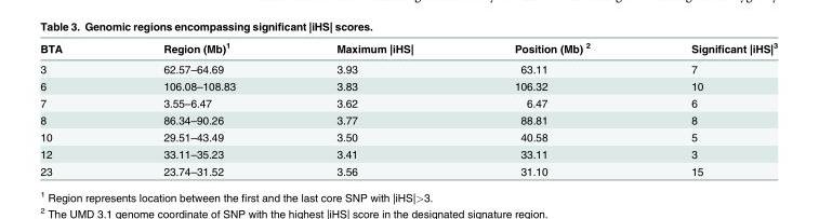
<table><thead><tr><td>BTA</td><td>Region (Mb)<sup>1</sup></td><td>Maximum |iHS|</td><td>Position (Mb) <sup>2</sup></td><td>Significant |iHS|<sup>3</sup></td></tr></thead><tbody><tr><td>3</td><td>62.57–64.69</td><td>3.93</td><td>63.11</td><td>7</td></tr><tr><td>6</td><td>106.08–108.83</td><td>3.83</td><td>106.32</td><td>10</td></tr><tr><td>7</td><td>3.55–6.47</td><td>3.62</td><td>6.47</td><td>6</td></tr><tr><td>8</td><td>86.34–90.26</td><td>3.77</td><td>88.81</td><td>8</td></tr><tr><td>10</td><td>29.51–43.49</td><td>3.50</td><td>40.58</td><td>5</td></tr><tr><td>12</td><td>33.11–35.23</td><td>3.41</td><td>33.11</td><td>3</td></tr><tr><td>23</td><td>23.74–31.52</td><td>3.56</td><td>31.10</td><td>15</td></tr></tbody></table>